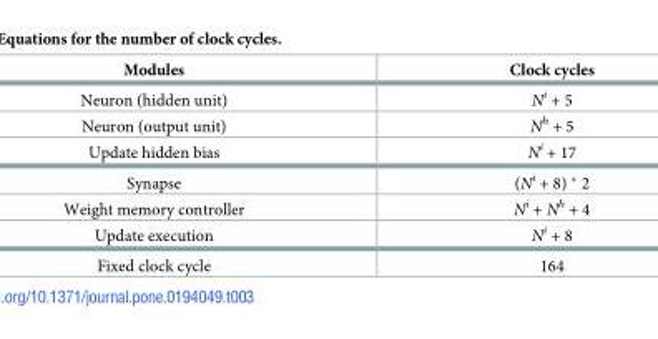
<table><thead><tr><td>Modules</td><td>Clock cycles</td></tr></thead><tbody><tr><td>Neuron (hidden unit)</td><td>N<sup>i</sup> + 5</td></tr><tr><td>Neuron (output unit)</td><td>N<sup>h</sup> + 5</td></tr><tr><td>Update hidden bias</td><td>N<sup>i</sup> + 17</td></tr><tr><td>Synapse</td><td>(N<sup>i</sup> + 8) * 2</td></tr><tr><td>Weight memory controller</td><td>N<sup>i</sup> + N<sup>h</sup> + 4</td></tr><tr><td>Update execution</td><td>N<sup>i</sup> + 8</td></tr><tr><td>Fixed clock cycle</td><td>164</td></tr></tbody></table>